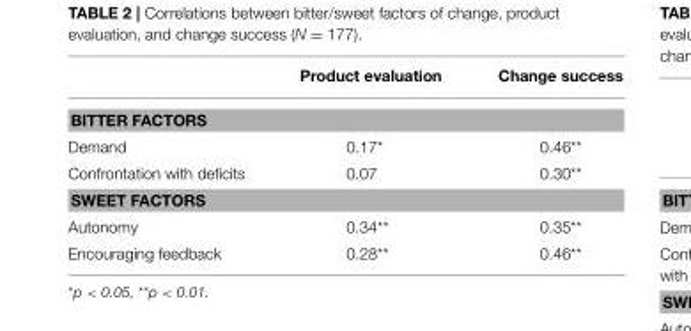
<table><thead><tr><td></td><td>Product evaluation</td><td>Change success</td></tr></thead><tbody><tr><td colspan="3">BITTER FACTORS</td></tr><tr><td>Demand</td><td>0.17*</td><td>0.46**</td></tr><tr><td>Confrontation with deficits</td><td>0.07</td><td>0.30**</td></tr><tr><td colspan="3">SWEET FACTORS</td></tr><tr><td>Autonomy</td><td>0.34**</td><td>0.35**</td></tr><tr><td>Encouraging feedback</td><td>0.28**</td><td>0.46**</td></tr></tbody></table>